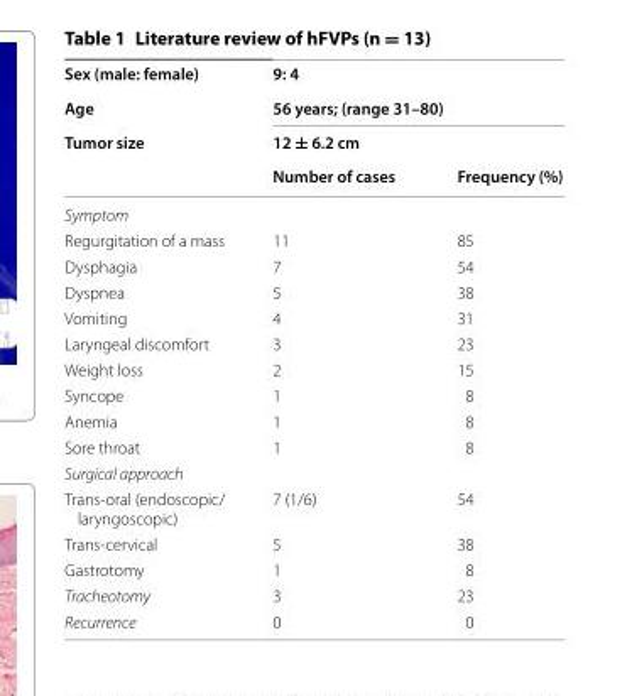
<table><thead><tr><td rowspan="4">Sex (male: female) Age Tumor size</td><td rowspan="3" colspan="2">9: 4 56 years; (range 31–80) 12 ± 6.2 cm</td></tr><tr></tr><tr></tr><tr><td>Number of cases</td><td>Frequency (%)</td></tr></thead><tbody><tr><td colspan="3">Symptom</td></tr><tr><td>Regurgitation of a mass</td><td>11</td><td>85</td></tr><tr><td>Dysphagia</td><td>7</td><td>54</td></tr><tr><td>Dyspnea</td><td>5</td><td>38</td></tr><tr><td>Vomiting</td><td>4</td><td>31</td></tr><tr><td>Laryngeal discomfort</td><td>3</td><td>23</td></tr><tr><td>Weight loss</td><td>2</td><td>15</td></tr><tr><td>Syncope</td><td>1</td><td>8</td></tr><tr><td>Anemia</td><td>1</td><td>8</td></tr><tr><td>Sore throat</td><td>1</td><td>8</td></tr><tr><td colspan="3">Surgical approach</td></tr><tr><td>Trans-oral (endoscopic/ laryngoscopic)</td><td>7 (1/6)</td><td>54</td></tr><tr><td>Trans-cervical</td><td>5</td><td>38</td></tr><tr><td>Gastrotomy</td><td>1</td><td>8</td></tr><tr><td>Tracheotomy</td><td>3</td><td>23</td></tr><tr><td>Recurrence</td><td>0</td><td>0</td></tr></tbody></table>